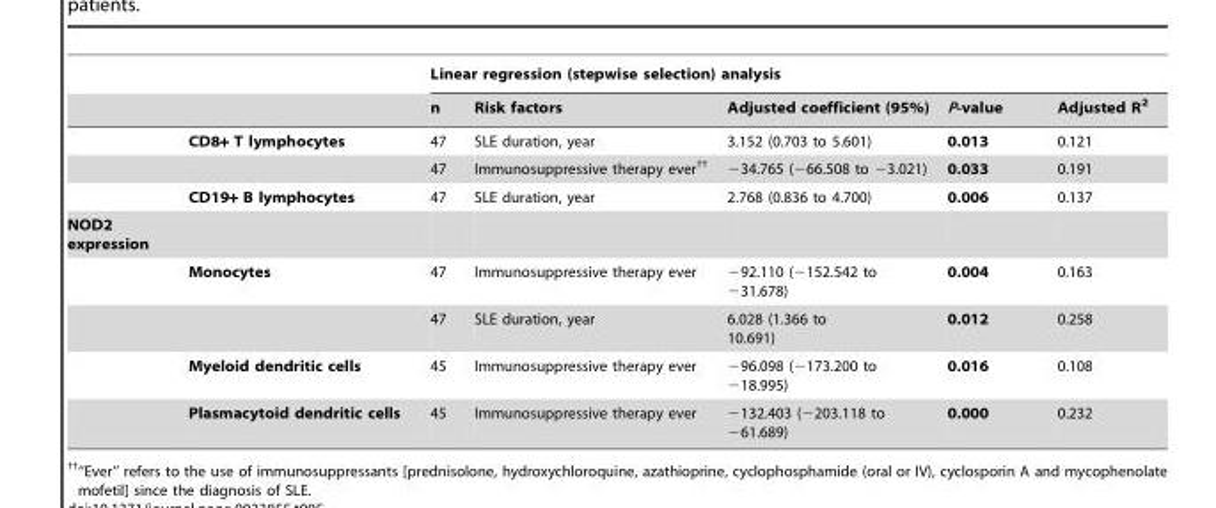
<table><thead><tr><td rowspan="2"></td><td rowspan="2"></td><td colspan="5">Linear regression (stepwise selection) analysis</td></tr><tr><td>n</td><td>Risk factors</td><td>Adjusted coefficient (95%)</td><td>P-value</td><td>Adjusted R<sup>2</sup></td></tr></thead><tbody><tr><td></td><td>CD8+ T lymphocytes</td><td>47</td><td>SLE duration, year</td><td>3.152 (0.703 to 5.601)</td><td>0.013</td><td>0.121</td></tr><tr><td></td><td></td><td>47</td><td>Immunosuppressive therapy ever┼┼</td><td>−34.765 (−66.508 to −3.021)</td><td>0.033</td><td>0.191</td></tr><tr><td></td><td>CD19+ B lymphocytes</td><td>47</td><td>SLE duration, year</td><td>2.768 (0.836 to 4.700)</td><td>0.006</td><td>0.137</td></tr><tr><td colspan="7">NOD2 expression</td></tr><tr><td></td><td>Monocytes</td><td>47</td><td>Immunosuppressive therapy ever</td><td>−92.110 (−152.542 to −31.678)</td><td>0.004</td><td>0.163</td></tr><tr><td></td><td></td><td>47</td><td>SLE duration, year</td><td>6.028 (1.366 to 10.691)</td><td>0.012</td><td>0.258</td></tr><tr><td></td><td>Myeloid dendritic cells</td><td>45</td><td>Immunosuppressive therapy ever</td><td>−96.098 (−173.200 to −18.995)</td><td>0.016</td><td>0.108</td></tr><tr><td></td><td>Plasmacytoid dendritic cells</td><td>45</td><td>Immunosuppressive therapy ever</td><td>−132.403 (−203.118 to −61.689)</td><td>0.000</td><td>0.232</td></tr></tbody></table>